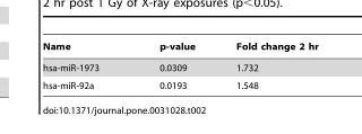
<table><thead><tr><td>Name</td><td>p-value</td><td>Fold change 2 hr</td></tr></thead><tbody><tr><td>hsa-miR-1973</td><td>0.0309</td><td>1.732</td></tr><tr><td>hsa-miR-92a</td><td>0.0193</td><td>1.548</td></tr></tbody></table>